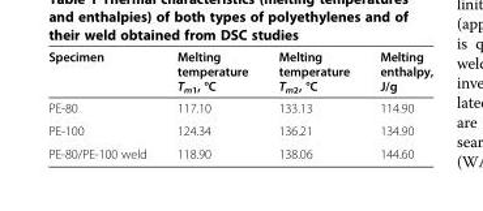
<table><thead><tr><td>Specimen</td><td>Melting temperature Т<sub>m1</sub>, °С</td><td>Melting temperature Т<sub>m2</sub>, °С</td><td>Melting enthalpy, J/g</td></tr></thead><tbody><tr><td>PE-80</td><td>117.10</td><td>133.13</td><td>114.90</td></tr><tr><td>PE-100</td><td>124.34</td><td>136.21</td><td>134.90</td></tr><tr><td>PE-80/PE-100 weld</td><td>118.90</td><td>138.06</td><td>144.60</td></tr></tbody></table>